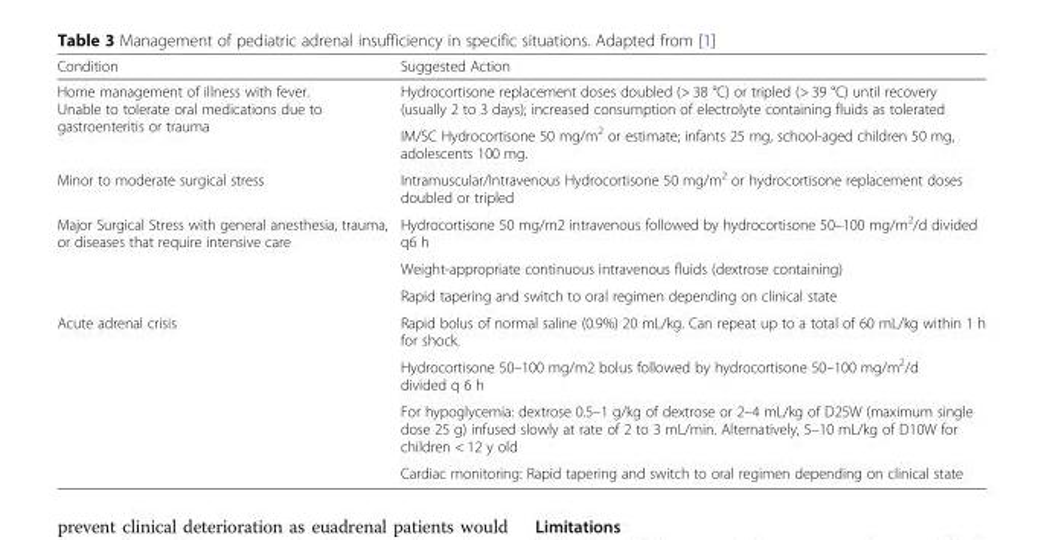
<table><thead><tr><td>Condition</td><td>Suggested Action</td></tr></thead><tbody><tr><td rowspan="2">Home management of illness with fever. Unable to tolerate oral medications due to gastroenteritis or trauma</td><td>Hydrocortisone replacement doses doubled (&gt; 38 °C) or tripled (&gt; 39 °C) until recovery (usually 2 to 3 days); increased consumption of electrolyte containing fluids as tolerated</td></tr><tr><td>IM/SC Hydrocortisone 50 mg/m<sup>2</sup> or estimate; infants 25 mg, school-aged children 50 mg, adolescents 100 mg.</td></tr><tr><td>Minor to moderate surgical stress</td><td>Intramuscular/Intravenous Hydrocortisone 50 mg/m<sup>2</sup> or hydrocortisone replacement doses doubled or tripled</td></tr><tr><td rowspan="3">Major Surgical Stress with general anesthesia, trauma, or diseases that require intensive care</td><td>Hydrocortisone 50 mg/m2 intravenous followed by hydrocortisone 50–100 mg/m<sup>2</sup>/d divided q6 h</td></tr><tr><td>Weight-appropriate continuous intravenous fluids (dextrose containing)</td></tr><tr><td>Rapid tapering and switch to oral regimen depending on clinical state</td></tr><tr><td rowspan="4">Acute adrenal crisis</td><td>Rapid bolus of normal saline (0.9%) 20 mL/kg. Can repeat up to a total of 60 mL/kg within 1 h for shock.</td></tr><tr><td>Hydrocortisone 50–100 mg/m2 bolus followed by hydrocortisone 50–100 mg/m<sup>2</sup>/d divided q 6 h</td></tr><tr><td>For hypoglycemia: dextrose 0.5–1 g/kg of dextrose or 2–4 mL/kg of D25W (maximum single dose 25 g) infused slowly at rate of 2 to 3 mL/min. Alternatively, 5–10 mL/kg of D10W for children &lt; 12 y old</td></tr><tr><td>Cardiac monitoring: Rapid tapering and switch to oral regimen depending on clinical state</td></tr></tbody></table>